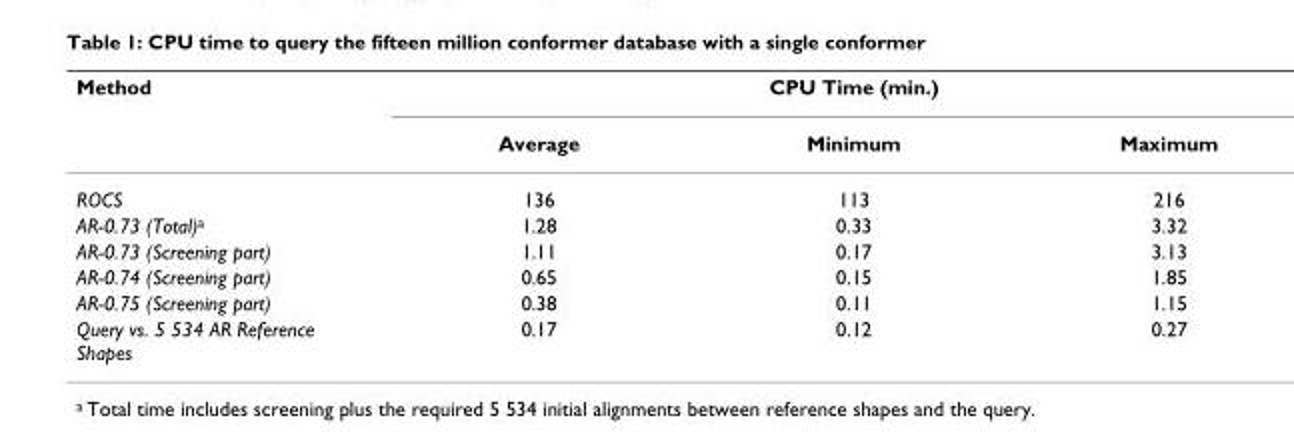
<table><thead><tr><td rowspan="2">Method</td><td colspan="3">CPU Time (min.)</td></tr><tr><td>Average</td><td>Minimum</td><td>Maximum</td></tr></thead><tbody><tr><td>ROCS</td><td>136</td><td>113</td><td>216</td></tr><tr><td>AR-0.73 (Total)<sup>a</sup></td><td>1.28</td><td>0.33</td><td>3.32</td></tr><tr><td>AR-0.73 (Screening part)</td><td>1.11</td><td>0.17</td><td>3.13</td></tr><tr><td>AR-0.74 (Screening part)</td><td>0.65</td><td>0.15</td><td>1.85</td></tr><tr><td>AR-0.75 (Screening part)</td><td>0.38</td><td>0.11</td><td>1.15</td></tr><tr><td>Query vs. 5 534 AR Reference Shapes</td><td>0.17</td><td>0.12</td><td>0.27</td></tr></tbody></table>